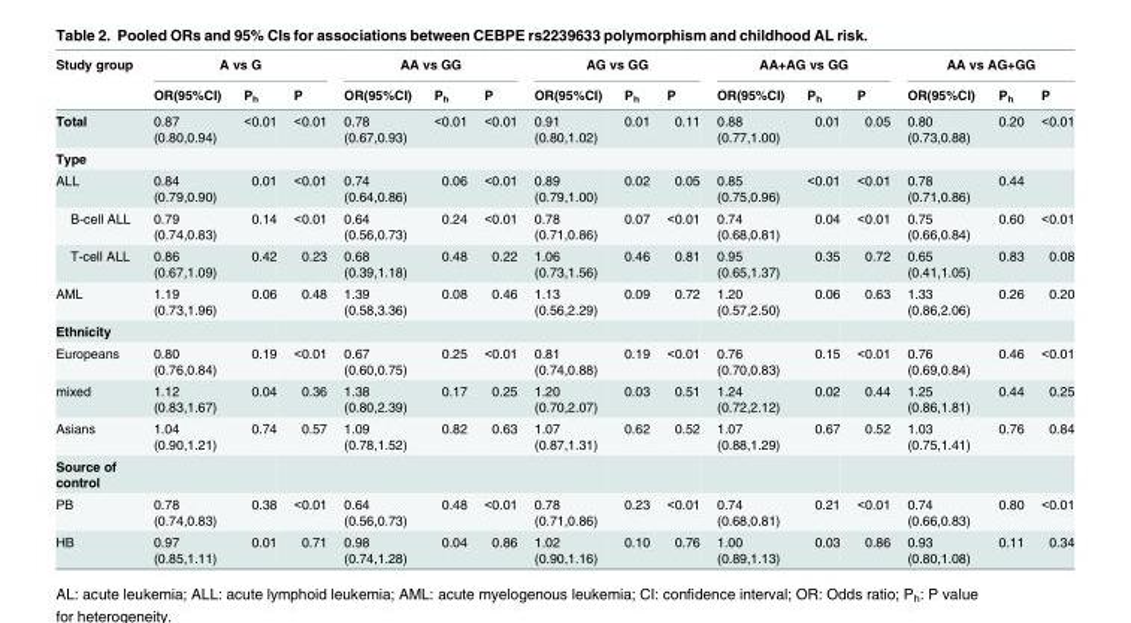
<table><thead><tr><td rowspan="2">Study group</td><td colspan="3">A vs G</td><td colspan="3">AA vs GG</td><td colspan="3">AG vs GG</td><td colspan="3">AA+AG vs GG</td><td colspan="3">AA vs AG+GG</td></tr><tr><td>OR(95%CI)</td><td>P<sub>h</sub></td><td>P</td><td>OR(95%CI)</td><td>P<sub>h</sub></td><td>P</td><td>OR(95%CI)</td><td>P<sub>h</sub></td><td>P</td><td>OR(95%CI)</td><td>P<sub>h</sub></td><td>P</td><td>OR(95%CI)</td><td>P<sub>h</sub></td><td>P</td></tr></thead><tbody><tr><td>Total</td><td>0.87 (0.80,0.94)</td><td>&lt;0.01</td><td>&lt;0.01</td><td>0.78 (0.67,0.93)</td><td>&lt;0.01</td><td>&lt;0.01</td><td>0.91 (0.80,1.02)</td><td>0.01</td><td>0.11</td><td>0.88 (0.77,1.00)</td><td>0.01</td><td>0.05</td><td>0.80 (0.73,0.88)</td><td>0.20</td><td>&lt;0.01</td></tr><tr><td colspan="16">Type</td></tr><tr><td>ALL</td><td>0.84 (0.79,0.90)</td><td>0.01</td><td>&lt;0.01</td><td>0.74 (0.64,0.86)</td><td>0.06</td><td>&lt;0.01</td><td>0.89 (0.79,1.00)</td><td>0.02</td><td>0.05</td><td>0.85 (0.75,0.96)</td><td>&lt;0.01</td><td>&lt;0.01</td><td>0.78 (0.71,0.86)</td><td>0.44</td><td></td></tr><tr><td>B-cell ALL</td><td>0.79 (0.74,0.83)</td><td>0.14</td><td>&lt;0.01</td><td>0.64 (0.56,0.73)</td><td>0.24</td><td>&lt;0.01</td><td>0.78 (0.71,0.86)</td><td>0.07</td><td>&lt;0.01</td><td>0.74 (0.68,0.81)</td><td>0.04</td><td>&lt;0.01</td><td>0.75 (0.66,0.84)</td><td>0.60</td><td>&lt;0.01</td></tr><tr><td>T-cell ALL</td><td>0.86 (0.67,1.09)</td><td>0.42</td><td>0.23</td><td>0.68 (0.39,1.18)</td><td>0.48</td><td>0.22</td><td>1.06 (0.73,1.56)</td><td>0.46</td><td>0.81</td><td>0.95 (0.65,1.37)</td><td>0.35</td><td>0.72</td><td>0.65 (0.41,1.05)</td><td>0.83</td><td>0.08</td></tr><tr><td>AML</td><td>1.19 (0.73,1.96)</td><td>0.06</td><td>0.48</td><td>1.39 (0.58,3.36)</td><td>0.08</td><td>0.46</td><td>1.13 (0.56,2.29)</td><td>0.09</td><td>0.72</td><td>1.20 (0.57,2.50)</td><td>0.06</td><td>0.63</td><td>1.33 (0.86,2.06)</td><td>0.26</td><td>0.20</td></tr><tr><td colspan="16">Ethnicity</td></tr><tr><td>Europeans</td><td>0.80 (0.76,0.84)</td><td>0.19</td><td>&lt;0.01</td><td>0.67 (0.60,0.75)</td><td>0.25</td><td>&lt;0.01</td><td>0.81 (0.74,0.88)</td><td>0.19</td><td>&lt;0.01</td><td>0.76 (0.70,0.83)</td><td>0.15</td><td>&lt;0.01</td><td>0.76 (0.69,0.84)</td><td>0.46</td><td>&lt;0.01</td></tr><tr><td>mixed</td><td>1.12 (0.83,1.67)</td><td>0.04</td><td>0.36</td><td>1.38 (0.80,2.39)</td><td>0.17</td><td>0.25</td><td>1.20 (0.70,2.07)</td><td>0.03</td><td>0.51</td><td>1.24 (0.72,2.12)</td><td>0.02</td><td>0.44</td><td>1.25 (0.86,1.81)</td><td>0.44</td><td>0.25</td></tr><tr><td>Asians</td><td>1.04 (0.90,1.21)</td><td>0.74</td><td>0.57</td><td>1.09 (0.78,1.52)</td><td>0.82</td><td>0.63</td><td>1.07 (0.87,1.31)</td><td>0.62</td><td>0.52</td><td>1.07 (0.88,1.29)</td><td>0.67</td><td>0.52</td><td>1.03 (0.75,1.41)</td><td>0.76</td><td>0.84</td></tr><tr><td colspan="16">Source of control</td></tr><tr><td>PB</td><td>0.78 (0.74,0.83)</td><td>0.38</td><td>&lt;0.01</td><td>0.64 (0.56,0.73)</td><td>0.48</td><td>&lt;0.01</td><td>0.78 (0.71,0.86)</td><td>0.23</td><td>&lt;0.01</td><td>0.74 (0.68,0.81)</td><td>0.21</td><td>&lt;0.01</td><td>0.74 (0.66,0.83)</td><td>0.80</td><td>&lt;0.01</td></tr><tr><td>HB</td><td>0.97 (0.85,1.11)</td><td>0.01</td><td>0.71</td><td>0.98 (0.74,1.28)</td><td>0.04</td><td>0.86</td><td>1.02 (0.90,1.16)</td><td>0.10</td><td>0.76</td><td>1.00 (0.89,1.13)</td><td>0.03</td><td>0.86</td><td>0.93 (0.80,1.08)</td><td>0.11</td><td>0.34</td></tr></tbody></table>